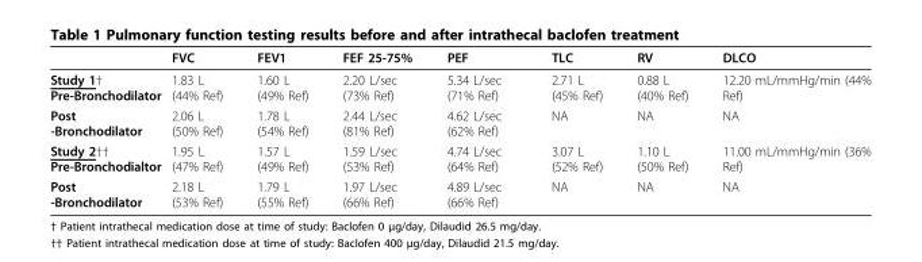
<table><thead><tr><td></td><td>FVC</td><td>FEV1</td><td>FEF 25-75%</td><td>PEF</td><td>TLC</td><td>RV</td><td>DLCO</td></tr></thead><tbody><tr><td>Study 1† Pre-Bronchodilator</td><td>1.83 L (44% Ref)</td><td>1.60 L (49% Ref)</td><td>2.20 L/sec (73% Ref)</td><td>5.34 L/sec (71% Ref)</td><td>2.71 L (45% Ref)</td><td>0.88 L (40% Ref)</td><td>12.20 mL/mmHg/min (44% Ref)</td></tr><tr><td>Post -Bronchodilator</td><td>2.06 L (50% Ref)</td><td>1.78 L (54% Ref)</td><td>2.44 L/sec (81% Ref)</td><td>4.62 L/sec (62% Ref)</td><td>NA</td><td>NA</td><td>NA</td></tr><tr><td>Study 2†† Pre-Bronchodialtor</td><td>1.95 L (47% Ref)</td><td>1.57 L (49% Ref)</td><td>1.59 L/sec (53% Ref)</td><td>4.74 L/sec (64% Ref)</td><td>3.07 L (52% Ref)</td><td>1.10 L (50% Ref)</td><td>11.00 mL/mmHg/min (36% Ref)</td></tr><tr><td>Post -Bronchodilator</td><td>2.18 L (53% Ref)</td><td>1.79 L (55% Ref)</td><td>1.97 L/sec (66% Ref)</td><td>4.89 L/sec (66% Ref)</td><td>NA</td><td>NA</td><td>NA</td></tr></tbody></table>